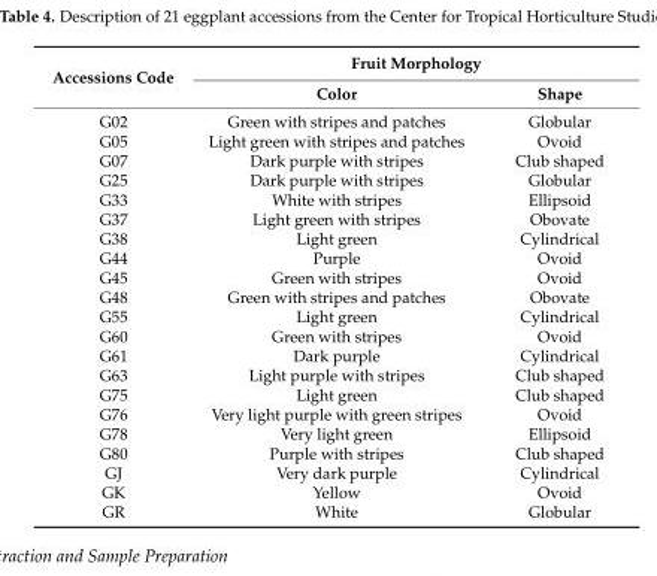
<table><thead><tr><td rowspan="2">Accessions Code</td><td colspan="2">Fruit Morphology</td></tr><tr><td>Color</td><td>Shape</td></tr></thead><tbody><tr><td>G02</td><td>Green with stripes and patches</td><td>Globular</td></tr><tr><td>G05</td><td>Light green with stripes and patches</td><td>Ovoid</td></tr><tr><td>G07</td><td>Dark purple with stripes</td><td>Club shaped</td></tr><tr><td>G25</td><td>Dark purple with stripes</td><td>Globular</td></tr><tr><td>G33</td><td>White with stripes</td><td>Ellipsoid</td></tr><tr><td>G37</td><td>Light green with stripes</td><td>Obovate</td></tr><tr><td>G38</td><td>Light green</td><td>Cylindrical</td></tr><tr><td>G44</td><td>Purple</td><td>Ovoid</td></tr><tr><td>G45</td><td>Green with stripes</td><td>Ovoid</td></tr><tr><td>G48</td><td>Green with stripes and patches</td><td>Obovate</td></tr><tr><td>G55</td><td>Light green</td><td>Cylindrical</td></tr><tr><td>G60</td><td>Green with stripes</td><td>Ovoid</td></tr><tr><td>G61</td><td>Dark purple</td><td>Cylindrical</td></tr><tr><td>G63</td><td>Light purple with stripes</td><td>Club shaped</td></tr><tr><td>G75</td><td>Light green</td><td>Club shaped</td></tr><tr><td>G76</td><td>Very light purple with green stripes</td><td>Ovoid</td></tr><tr><td>G78</td><td>Very light green</td><td>Ellipsoid</td></tr><tr><td>G80</td><td>Purple with stripes</td><td>Club shaped</td></tr><tr><td>GJ</td><td>Very dark purple</td><td>Cylindrical</td></tr><tr><td>GK</td><td>Yellow</td><td>Ovoid</td></tr><tr><td>GR</td><td>White</td><td>Globular</td></tr></tbody></table>